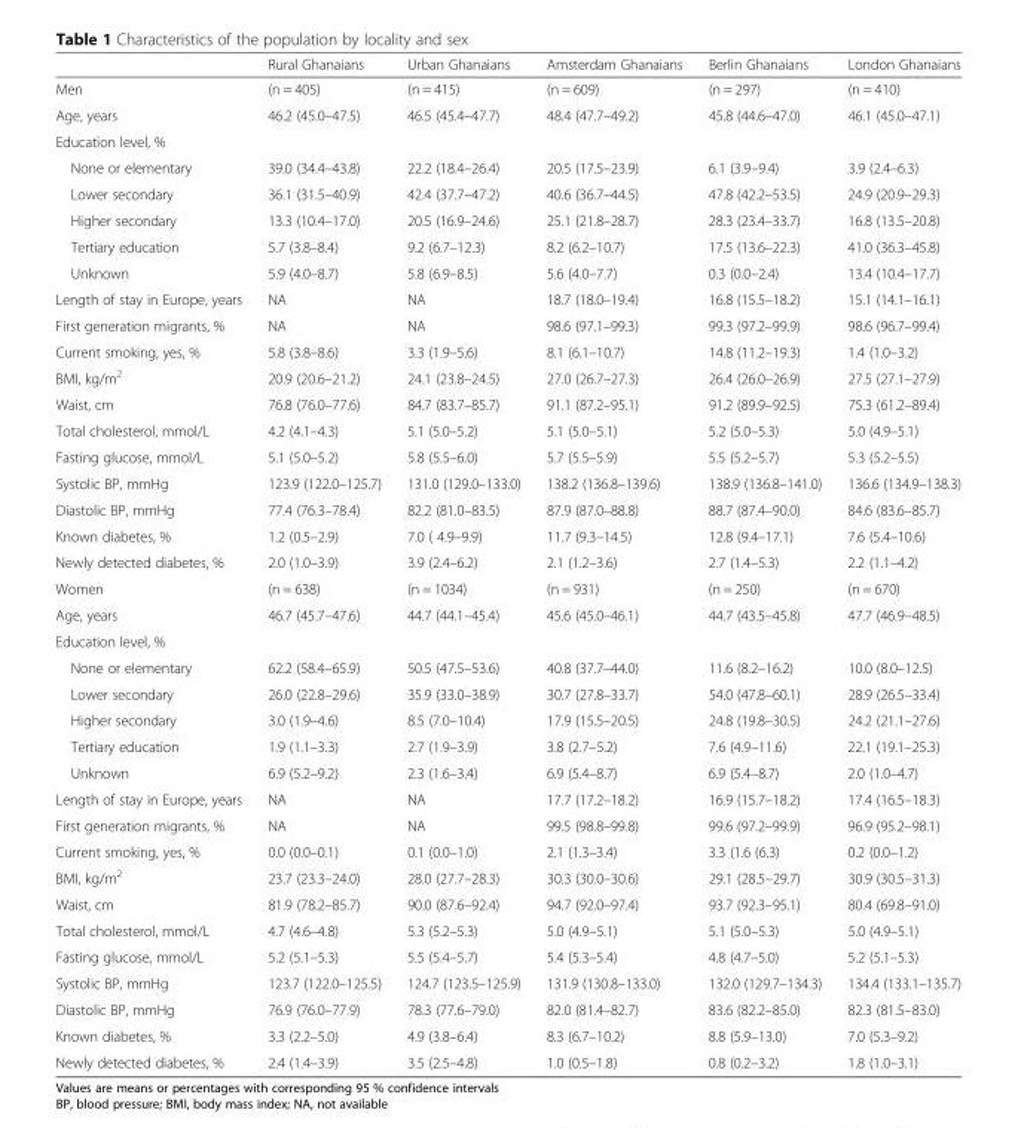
<table><thead><tr><td></td><td>Rural Ghanaians</td><td>Urban Ghanaians</td><td>Amsterdam Ghanaians</td><td>Berlin Ghanaians</td><td>London Ghanaians</td></tr></thead><tbody><tr><td>Men</td><td>(n = 405)</td><td>(n = 415)</td><td>(n = 609)</td><td>(n = 297)</td><td>(n = 410)</td></tr><tr><td>Age, years</td><td>46.2 (45.0–47.5)</td><td>46.5 (45.4–47.7)</td><td>48.4 (47.7–49.2)</td><td>45.8 (44.6–47.0)</td><td>46.1 (45.0–47.1)</td></tr><tr><td colspan="6">Education level, %</td></tr><tr><td>None or elementary</td><td>39.0 (34.4–43.8)</td><td>22.2 (18.4–26.4)</td><td>20.5 (17.5–23.9)</td><td>6.1 (3.9–9.4)</td><td>3.9 (2.4–6.3)</td></tr><tr><td>Lower secondary</td><td>36.1 (31.5–40.9)</td><td>42.4 (37.7–47.2)</td><td>40.6 (36.7–44.5)</td><td>47.8 (42.2–53.5)</td><td>24.9 (20.9–29.3)</td></tr><tr><td>Higher secondary</td><td>13.3 (10.4–17.0)</td><td>20.5 (16.9–24.6)</td><td>25.1 (21.8–28.7)</td><td>28.3 (23.4–33.7)</td><td>16.8 (13.5–20.8)</td></tr><tr><td>Tertiary education</td><td>5.7 (3.8–8.4)</td><td>9.2 (6.7–12.3)</td><td>8.2 (6.2–10.7)</td><td>17.5 (13.6–22.3)</td><td>41.0 (36.3–45.8)</td></tr><tr><td>Unknown</td><td>5.9 (4.0–8.7)</td><td>5.8 (6.9–8.5)</td><td>5.6 (4.0–7.7)</td><td>0.3 (0.0–2.4)</td><td>13.4 (10.4–17.7)</td></tr><tr><td>Length of stay in Europe, years</td><td>NA</td><td>NA</td><td>18.7 (18.0–19.4)</td><td>16.8 (15.5–18.2)</td><td>15.1 (14.1–16.1)</td></tr><tr><td>First generation migrants, %</td><td>NA</td><td>NA</td><td>98.6 (97.1–99.3)</td><td>99.3 (97.2–99.9)</td><td>98.6 (96.7–99.4)</td></tr><tr><td>Current smoking, yes, %</td><td>5.8 (3.8–8.6)</td><td>3.3 (1.9–5.6)</td><td>8.1 (6.1–10.7)</td><td>14.8 (11.2–19.3)</td><td>1.4 (1.0–3.2)</td></tr><tr><td>BMI, kg/m<sup>2</sup></td><td>20.9 (20.6–21.2)</td><td>24.1 (23.8–24.5)</td><td>27.0 (26.7–27.3)</td><td>26.4 (26.0–26.9)</td><td>27.5 (27.1–27.9)</td></tr><tr><td>Waist, cm</td><td>76.8 (76.0–77.6)</td><td>84.7 (83.7–85.7)</td><td>91.1 (87.2–95.1)</td><td>91.2 (89.9–92.5)</td><td>75.3 (61.2–89.4)</td></tr><tr><td>Total cholesterol, mmol/L</td><td>4.2 (4.1–4.3)</td><td>5.1 (5.0–5.2)</td><td>5.1 (5.0–5.1)</td><td>5.2 (5.0–5.3)</td><td>5.0 (4.9–5.1)</td></tr><tr><td>Fasting glucose, mmol/L</td><td>5.1 (5.0–5.2)</td><td>5.8 (5.5–6.0)</td><td>5.7 (5.5–5.9)</td><td>5.5 (5.2–5.7)</td><td>5.3 (5.2–5.5)</td></tr><tr><td>Systolic BP, mmHg</td><td>123.9 (122.0–125.7)</td><td>131.0 (129.0–133.0)</td><td>138.2 (136.8–139.6)</td><td>138.9 (136.8–141.0)</td><td>136.6 (134.9–138.3)</td></tr><tr><td>Diastolic BP, mmHg</td><td>77.4 (76.3–78.4)</td><td>82.2 (81.0–83.5)</td><td>87.9 (87.0–88.8)</td><td>88.7 (87.4–90.0)</td><td>84.6 (83.6–85.7)</td></tr><tr><td>Known diabetes, %</td><td>1.2 (0.5–2.9)</td><td>7.0 ( 4.9–9.9)</td><td>11.7 (9.3–14.5)</td><td>12.8 (9.4–17.1)</td><td>7.6 (5.4–10.6)</td></tr><tr><td>Newly detected diabetes, %</td><td>2.0 (1.0–3.9)</td><td>3.9 (2.4–6.2)</td><td>2.1 (1.2–3.6)</td><td>2.7 (1.4–5.3)</td><td>2.2 (1.1–4.2)</td></tr><tr><td>Women</td><td>(n = 638)</td><td>(n = 1034)</td><td>(n = 931)</td><td>(n = 250)</td><td>(n = 670)</td></tr><tr><td>Age, years</td><td>46.7 (45.7–47.6)</td><td>44.7 (44.1–45.4)</td><td>45.6 (45.0–46.1)</td><td>44.7 (43.5–45.8)</td><td>47.7 (46.9–48.5)</td></tr><tr><td colspan="6">Education level, %</td></tr><tr><td>None or elementary</td><td>62.2 (58.4–65.9)</td><td>50.5 (47.5–53.6)</td><td>40.8 (37.7–44.0)</td><td>11.6 (8.2–16.2)</td><td>10.0 (8.0–12.5)</td></tr><tr><td>Lower secondary</td><td>26.0 (22.8–29.6)</td><td>35.9 (33.0–38.9)</td><td>30.7 (27.8–33.7)</td><td>54.0 (47.8–60.1)</td><td>28.9 (26.5–33.4)</td></tr><tr><td>Higher secondary</td><td>3.0 (1.9–4.6)</td><td>8.5 (7.0–10.4)</td><td>17.9 (15.5–20.5)</td><td>24.8 (19.8–30.5)</td><td>24.2 (21.1–27.6)</td></tr><tr><td>Tertiary education</td><td>1.9 (1.1–3.3)</td><td>2.7 (1.9–3.9)</td><td>3.8 (2.7–5.2)</td><td>7.6 (4.9–11.6)</td><td>22.1 (19.1–25.3)</td></tr><tr><td>Unknown</td><td>6.9 (5.2–9.2)</td><td>2.3 (1.6–3.4)</td><td>6.9 (5.4–8.7)</td><td>6.9 (5.4–8.7)</td><td>2.0 (1.0–4.7)</td></tr><tr><td>Length of stay in Europe, years</td><td>NA</td><td>NA</td><td>17.7 (17.2–18.2)</td><td>16.9 (15.7–18.2)</td><td>17.4 (16.5–18.3)</td></tr><tr><td>First generation migrants, %</td><td>NA</td><td>NA</td><td>99.5 (98.8–99.8)</td><td>99.6 (97.2–99.9)</td><td>96.9 (95.2–98.1)</td></tr><tr><td>Current smoking, yes, %</td><td>0.0 (0.0–0.1)</td><td>0.1 (0.0–1.0)</td><td>2.1 (1.3–3.4)</td><td>3.3 (1.6 (6.3)</td><td>0.2 (0.0–1.2)</td></tr><tr><td>BMI, kg/m<sup>2</sup></td><td>23.7 (23.3–24.0)</td><td>28.0 (27.7–28.3)</td><td>30.3 (30.0–30.6)</td><td>29.1 (28.5–29.7)</td><td>30.9 (30.5–31.3)</td></tr><tr><td>Waist, cm</td><td>81.9 (78.2–85.7)</td><td>90.0 (87.6–92.4)</td><td>94.7 (92.0–97.4)</td><td>93.7 (92.3–95.1)</td><td>80.4 (69.8–91.0)</td></tr><tr><td>Total cholesterol, mmol/L</td><td>4.7 (4.6–4.8)</td><td>5.3 (5.2–5.3)</td><td>5.0 (4.9–5.1)</td><td>5.1 (5.0–5.3)</td><td>5.0 (4.9–5.1)</td></tr><tr><td>Fasting glucose, mmol/L</td><td>5.2 (5.1–5.3)</td><td>5.5 (5.4–5.7)</td><td>5.4 (5.3–5.4)</td><td>4.8 (4.7–5.0)</td><td>5.2 (5.1–5.3)</td></tr><tr><td>Systolic BP, mmHg</td><td>123.7 (122.0–125.5)</td><td>124.7 (123.5–125.9)</td><td>131.9 (130.8–133.0)</td><td>132.0 (129.7–134.3)</td><td>134.4 (133.1–135.7)</td></tr><tr><td>Diastolic BP, mmHg</td><td>76.9 (76.0–77.9)</td><td>78.3 (77.6–79.0)</td><td>82.0 (81.4–82.7)</td><td>83.6 (82.2–85.0)</td><td>82.3 (81.5–83.0)</td></tr><tr><td>Known diabetes, %</td><td>3.3 (2.2–5.0)</td><td>4.9 (3.8–6.4)</td><td>8.3 (6.7–10.2)</td><td>8.8 (5.9–13.0)</td><td>7.0 (5.3–9.2)</td></tr><tr><td>Newly detected diabetes, %</td><td>2.4 (1.4–3.9)</td><td>3.5 (2.5–4.8)</td><td>1.0 (0.5–1.8)</td><td>0.8 (0.2–3.2)</td><td>1.8 (1.0–3.1)</td></tr></tbody></table>